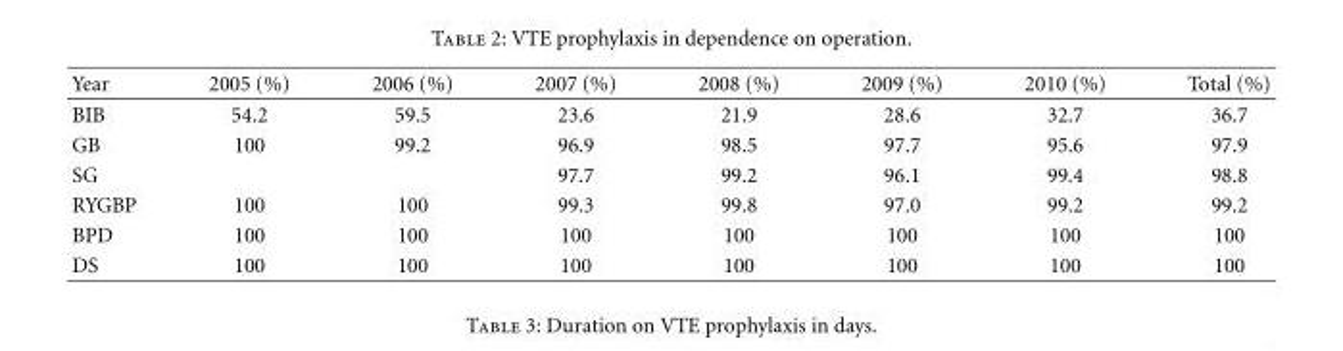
<table><thead><tr><td>Year</td><td>2005 (%)</td><td>2006 (%)</td><td>2007 (%)</td><td>2008 (%)</td><td>2009 (%)</td><td>2010 (%)</td><td>Total (%)</td></tr></thead><tbody><tr><td>BIB</td><td>54.2</td><td>59.5</td><td>23.6</td><td>21.9</td><td>28.6</td><td>32.7</td><td>36.7</td></tr><tr><td>GB</td><td>100</td><td>99.2</td><td>96.9</td><td>98.5</td><td>97.7</td><td>95.6</td><td>97.9</td></tr><tr><td>SG</td><td></td><td></td><td>97.7</td><td>99.2</td><td>96.1</td><td>99.4</td><td>98.8</td></tr><tr><td>RYGBP</td><td>100</td><td>100</td><td>99.3</td><td>99.8</td><td>97.0</td><td>99.2</td><td>99.2</td></tr><tr><td>BPD</td><td>100</td><td>100</td><td>100</td><td>100</td><td>100</td><td>100</td><td>100</td></tr><tr><td>DS</td><td>100</td><td>100</td><td>100</td><td>100</td><td>100</td><td>100</td><td>100</td></tr></tbody></table>